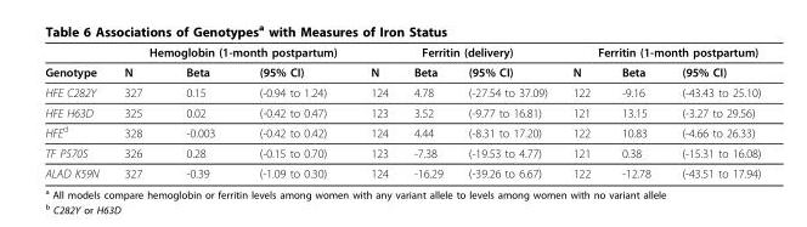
<table><thead><tr><td rowspan="2">Genotype</td><td colspan="3">Hemoglobin (1-month postpartum)</td><td colspan="3">Ferritin (delivery)</td><td colspan="3">Ferritin (1-month postpartum)</td></tr><tr><td>N</td><td>Beta</td><td>(95% CI)</td><td>N</td><td>Beta</td><td>(95% CI)</td><td>N</td><td>Beta</td><td>(95% CI)</td></tr></thead><tbody><tr><td>HFE C282Y</td><td>327</td><td>0.15</td><td>(-0.94 to 1.24)</td><td>124</td><td>4.78</td><td>(-27.54 to 37.09)</td><td>122</td><td>-9.16</td><td>(-43.43 to 25.10)</td></tr><tr><td>HFE H63D</td><td>325</td><td>0.02</td><td>(-0.42 to 0.47)</td><td>123</td><td>3.52</td><td>(-9.77 to 16.81)</td><td>121</td><td>13.15</td><td>(-3.27 to 29.56)</td></tr><tr><td>HFE<sup>d</sup></td><td>328</td><td>-0.003</td><td>(-0.42 to 0.42)</td><td>124</td><td>4.44</td><td>(-8.31 to 17.20)</td><td>122</td><td>10.83</td><td>(-4.66 to 26.33)</td></tr><tr><td>TF P570S</td><td>326</td><td>0.28</td><td>(-0.15 to 0.70)</td><td>123</td><td>-7.38</td><td>(-19.53 to 4.77)</td><td>121</td><td>0.38</td><td>(-15.31 to 16.08)</td></tr><tr><td>ALAD K59N</td><td>327</td><td>-0.39</td><td>(-1.09 to 0.30)</td><td>124</td><td>-16.29</td><td>(-39.26 to 6.67)</td><td>122</td><td>-12.78</td><td>(-43.51 to 17.94)</td></tr></tbody></table>